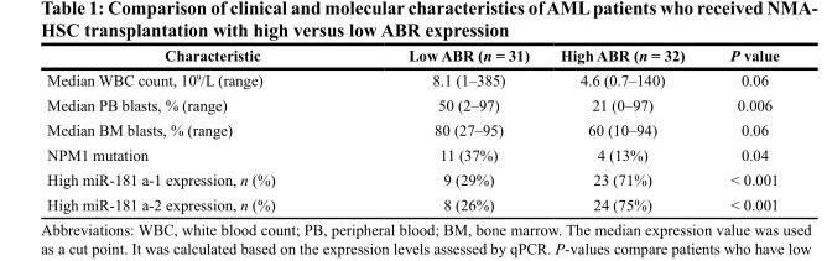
<table><thead><tr><td>Characteristic</td><td>Low ABR (n = 31)</td><td>High ABR (n = 32)</td><td>P value</td></tr></thead><tbody><tr><td>Median WBC count, 10<sup>9</sup>/L (range)</td><td>8.1 (1–385)</td><td>4.6 (0.7–140)</td><td>0.06</td></tr><tr><td>Median PB blasts, % (range)</td><td>50 (2–97)</td><td>21 (0–97)</td><td>0.006</td></tr><tr><td>Median BM blasts, % (range)</td><td>80 (27–95)</td><td>60 (10–94)</td><td>0.06</td></tr><tr><td>NPM1 mutation</td><td>11 (37%)</td><td>4 (13%)</td><td>0.04</td></tr><tr><td>High miR-181 a-1 expression, n (%)</td><td>9 (29%)</td><td>23 (71%)</td><td>&lt; 0.001</td></tr><tr><td>High miR-181 a-2 expression, n (%)</td><td>8 (26%)</td><td>24 (75%)</td><td>&lt; 0.001</td></tr></tbody></table>